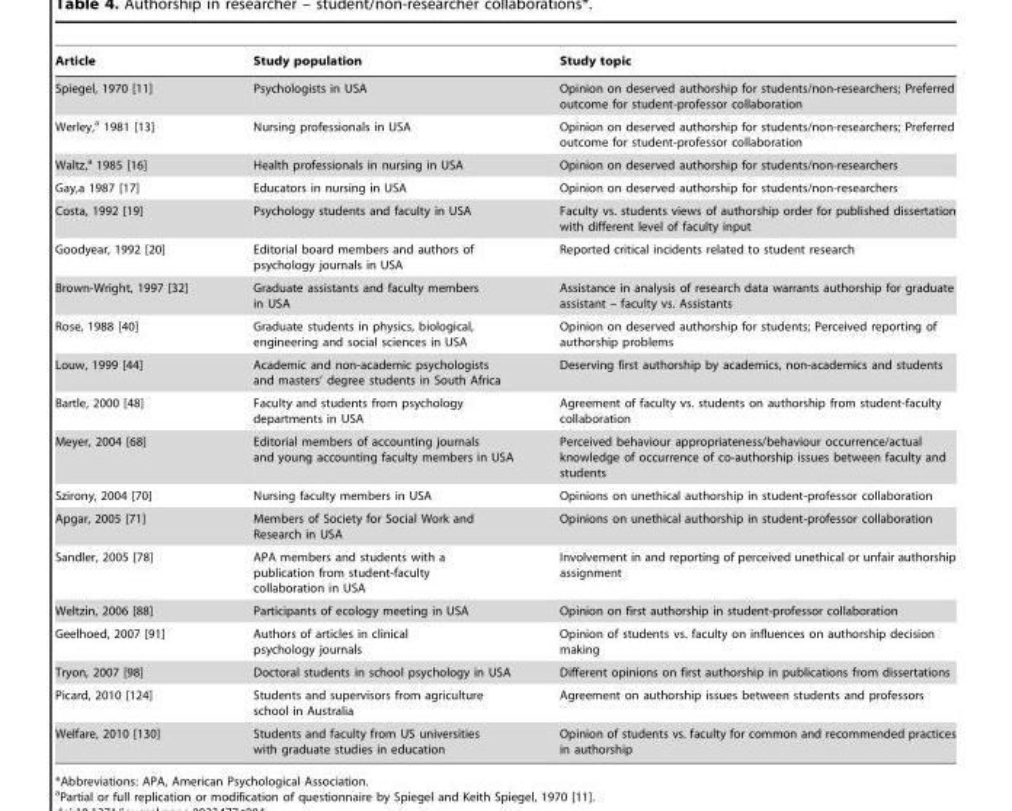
<table><thead><tr><td>Article</td><td>Study population</td><td>Study topic</td></tr></thead><tbody><tr><td>Spiegel, 1970 [11]</td><td>Psychologists in USA</td><td>Opinion on deserved authorship for students/non-researchers; Preferred outcome for student-professor collaboration</td></tr><tr><td>Werley,<sup>a</sup> 1981 [13]</td><td>Nursing professionals in USA</td><td>Opinion on deserved authorship for students/non-researchers; Preferred outcome for student-professor collaboration</td></tr><tr><td>Waltz,<sup>a</sup> 1985 [16]</td><td>Health professionals in nursing in USA</td><td>Opinion on deserved authorship for students/non-researchers</td></tr><tr><td>Gay,a 1987 [17]</td><td>Educators in nursing in USA</td><td>Opinion on deserved authorship for students/non-researchers</td></tr><tr><td>Costa, 1992 [19]</td><td>Psychology students and faculty in USA</td><td>Faculty vs. students views of authorship order for published dissertation with different level of faculty input</td></tr><tr><td>Goodyear, 1992 [20]</td><td>Editorial board members and authors of psychology journals in USA</td><td>Reported critical incidents related to student research</td></tr><tr><td>Brown-Wright, 1997 [32]</td><td>Graduate assistants and faculty members in USA</td><td>Assistance in analysis of research data warrants authorship for graduate assistant – faculty vs. Assistants</td></tr><tr><td>Rose, 1988 [40]</td><td>Graduate students in physics, biological, engineering and social sciences in USA</td><td>Opinion on deserved authorship for students; Perceived reporting of authorship problems</td></tr><tr><td>Louw, 1999 [44]</td><td>Academic and non-academic psychologists and masters’ degree students in South Africa</td><td>Deserving first authorship by academics, non-academics and students</td></tr><tr><td>Bartle, 2000 [48]</td><td>Faculty and students from psychology departments in USA</td><td>Agreement of faculty vs. students on authorship from student-faculty collaboration</td></tr><tr><td>Meyer, 2004 [68]</td><td>Editorial members of accounting journals and young accounting faculty members in USA</td><td>Perceived behaviour appropriateness/behaviour occurrence/actual knowledge of occurrence of co-authorship issues between faculty and students</td></tr><tr><td>Szirony, 2004 [70]</td><td>Nursing faculty members in USA</td><td>Opinions on unethical authorship in student-professor collaboration</td></tr><tr><td>Apgar, 2005 [71]</td><td>Members of Society for Social Work and Research in USA</td><td>Opinions on unethical authorship in student-professor collaboration</td></tr><tr><td>Sandler, 2005 [78]</td><td>APA members and students with a publication from student-faculty collaboration in USA</td><td>Involvement in and reporting of perceived unethical or unfair authorship assignment</td></tr><tr><td>Weltzin, 2006 [88]</td><td>Participants of ecology meeting in USA</td><td>Opinion on first authorship in student-professor collaboration</td></tr><tr><td>Geelhoed, 2007 [91]</td><td>Authors of articles in clinical psychology journals</td><td>Opinion of students vs. faculty on influences on authorship decision making</td></tr><tr><td>Tryon, 2007 [98]</td><td>Doctoral students in school psychology in USA</td><td>Different opinions on first authorship in publications from dissertations</td></tr><tr><td>Picard, 2010 [124]</td><td>Students and supervisors from agriculture school in Australia</td><td>Agreement on authorship issues between students and professors</td></tr><tr><td>Welfare, 2010 [130]</td><td>Students and faculty from US universities with graduate studies in education</td><td>Opinion of students vs. faculty for common and recommended practices in authorship</td></tr></tbody></table>